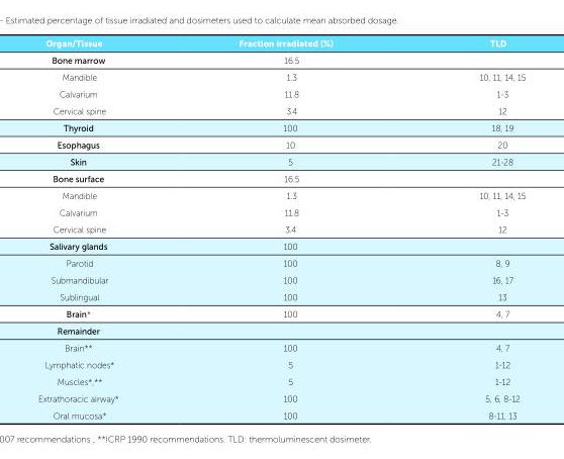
<table><tbody><tr><td>Organ/Tissue</td><td>Fraction irradiated (%)</td><td>TLD</td></tr><tr><td>Bone marrow</td><td>16.5</td><td></td></tr><tr><td>Mandible</td><td>1.3</td><td>10, 11, 14, 15</td></tr><tr><td>Calvarium</td><td>11.8</td><td>1-3</td></tr><tr><td>Cervical spine</td><td>3.4</td><td>12</td></tr><tr><td>Thyroid</td><td>100</td><td>18, 19</td></tr><tr><td>Esophagus</td><td>10</td><td>20</td></tr><tr><td>Skin</td><td>5</td><td>21-28</td></tr><tr><td>Bone surface</td><td>16.5</td><td></td></tr><tr><td>Mandible</td><td>1.3</td><td>10, 11, 14, 15</td></tr><tr><td>Calvarium</td><td>11.8</td><td>1-3</td></tr><tr><td>Cervical spine</td><td>3.4</td><td>12</td></tr><tr><td>Salivary glands</td><td>100</td><td></td></tr><tr><td>Parotid</td><td>100</td><td>8, 9</td></tr><tr><td>Submandibular</td><td>100</td><td>16, 17</td></tr><tr><td>Sublingual</td><td>100</td><td>13</td></tr><tr><td>Brain*</td><td>100</td><td>4, 7</td></tr><tr><td colspan="3">Remainder</td></tr><tr><td>Brain**</td><td>100</td><td>4, 7</td></tr><tr><td>Lymphatic nodes*</td><td>5</td><td>1-12</td></tr><tr><td>Muscles*,**</td><td>5</td><td>1-12</td></tr><tr><td>Extrathoracic airway*</td><td>100</td><td>5, 6, 8-12</td></tr><tr><td>Oral mucosa*</td><td>100</td><td>8-11, 13</td></tr></tbody></table>